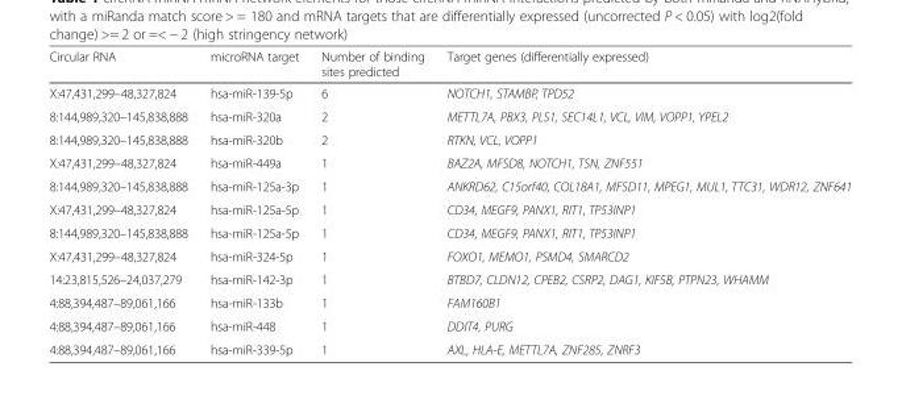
<table><thead><tr><td>Circular RNA</td><td>microRNA target</td><td>Number of binding sites predicted</td><td>Target genes (differentially expressed)</td></tr></thead><tbody><tr><td>X:47,431,299–48,327,824</td><td>hsa-miR-139-5p</td><td>6</td><td>NOTCH1, STAMBP, TPD52</td></tr><tr><td>8:144,989,320–145,838,888</td><td>hsa-miR-320a</td><td>2</td><td>METTL7A, PBX3, PLS1, SEC14L1, VCL, VIM, VOPP1, YPEL2</td></tr><tr><td>8:144,989,320–145,838,888</td><td>hsa-miR-320b</td><td>2</td><td>RTKN, VCL, VOPP1</td></tr><tr><td>X:47,431,299–48,327,824</td><td>hsa-miR-449a</td><td>1</td><td>BAZ2A, MFSD8, NOTCH1, TSN, ZNF551</td></tr><tr><td>8:144,989,320–145,838,888</td><td>hsa-miR-125a-3p</td><td>1</td><td>ANKRD62, C15orf40, COL18A1, MFSD11, MPEG1, MUL1, TTC31, WDR12, ZNF641</td></tr><tr><td>X:47,431,299–48,327,824</td><td>hsa-miR-125a-5p</td><td>1</td><td>CD34, MEGF9, PANX1, RIT1, TP53INP1</td></tr><tr><td>8:144,989,320–145,838,888</td><td>hsa-miR-125a-5p</td><td>1</td><td>CD34, MEGF9, PANX1, RIT1, TP53INP1</td></tr><tr><td>X:47,431,299–48,327,824</td><td>hsa-miR-324-5p</td><td>1</td><td>FOXO1, MEMO1, PSMD4, SMARCD2</td></tr><tr><td>14:23,815,526–24,037,279</td><td>hsa-miR-142-3p</td><td>1</td><td>BTBD7, CLDN12, CPEB2, CSRP2, DAG1, KIF5B, PTPN23, WHAMM</td></tr><tr><td>4:88,394,487–89,061,166</td><td>hsa-miR-133b</td><td>1</td><td>FAM160B1</td></tr><tr><td>4:88,394,487–89,061,166</td><td>hsa-miR-448</td><td>1</td><td>DDIT4, PURG</td></tr><tr><td>4:88,394,487–89,061,166</td><td>hsa-miR-339-5p</td><td>1</td><td>AXL, HLA-E, METTL7A, ZNF285, ZNRF3</td></tr></tbody></table>